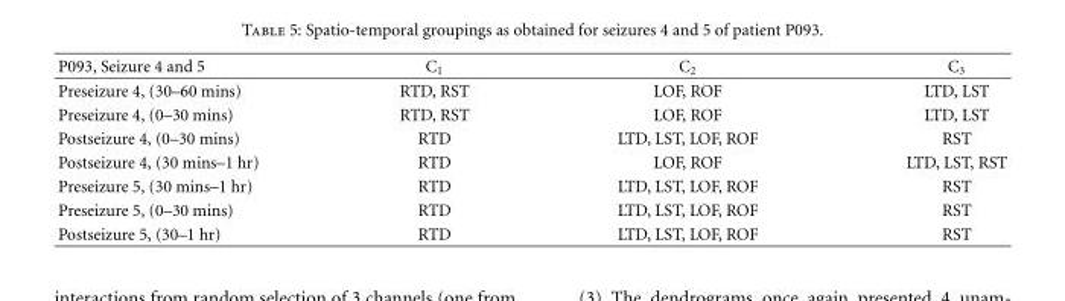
<table><thead><tr><td>P093, Seizure 4 and 5</td><td>C<sub>1</sub></td><td>C<sub>2</sub></td><td>C<sub>3</sub></td></tr></thead><tbody><tr><td>Preseizure 4, (30–60 mins)</td><td>RTD, RST</td><td>LOF, ROF</td><td>LTD, LST</td></tr><tr><td>Preseizure 4, (0–30 mins)</td><td>RTD, RST</td><td>LOF, ROF</td><td>LTD, LST</td></tr><tr><td>Postseizure 4, (0–30 mins)</td><td>RTD</td><td>LTD, LST, LOF, ROF</td><td>RST</td></tr><tr><td>Postseizure 4, (30 mins–1 hr)</td><td>RTD</td><td>LOF, ROF</td><td>LTD, LST, RST</td></tr><tr><td>Preseizure 5, (30 mins–1 hr)</td><td>RTD</td><td>LTD, LST, LOF, ROF</td><td>RST</td></tr><tr><td>Preseizure 5, (0–30 mins)</td><td>RTD</td><td>LTD, LST, LOF, ROF</td><td>RST</td></tr><tr><td>Postseizure 5, (30–1 hr)</td><td>RTD</td><td>LTD, LST, LOF, ROF</td><td>RST</td></tr></tbody></table>